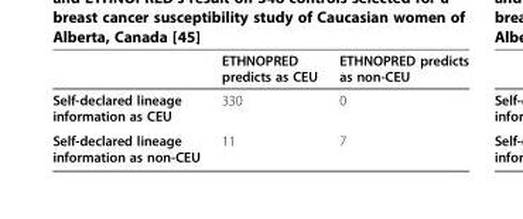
<table><thead><tr><td></td><td>ETHNOPRED predicts as CEU</td><td>ETHNOPRED predicts as non-CEU</td></tr></thead><tbody><tr><td>Self-declared lineage information as CEU</td><td>330</td><td>0</td></tr><tr><td>Self-declared lineage information as non-CEU</td><td>11</td><td>7</td></tr></tbody></table>